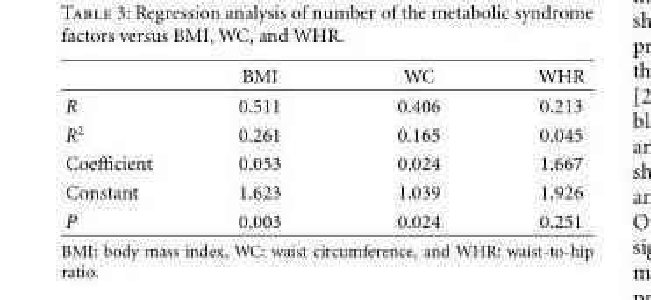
<table><thead><tr><td></td><td>BMI</td><td>WC</td><td>WHR</td></tr></thead><tbody><tr><td>R</td><td>0.511</td><td>0.406</td><td>0.213</td></tr><tr><td>R<sup>2</sup></td><td>0.261</td><td>0.165</td><td>0.045</td></tr><tr><td>Coefficient</td><td>0.053</td><td>0.024</td><td>1.667</td></tr><tr><td>Constant</td><td>1.623</td><td>1.039</td><td>1.926</td></tr><tr><td>P</td><td>0.003</td><td>0.024</td><td>0.251</td></tr></tbody></table>